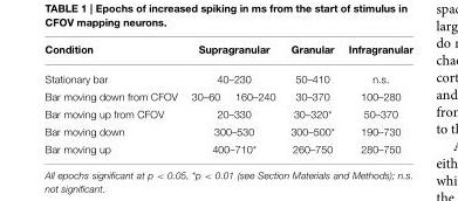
<table><thead><tr><td rowspan="3">Condition Stationary bar Bar moving down from CFOV</td><td rowspan="2" colspan="2">Supragranular 40–230</td><td rowspan="3">Granular 50–410 30–370</td><td rowspan="3">Infragranular n.s. 100–280</td></tr><tr></tr><tr><td>30–60</td><td>160–240</td></tr></thead><tbody><tr><td>Bar moving up from CFOV</td><td colspan="2">20–330</td><td>30–320*</td><td>50–370</td></tr><tr><td>Bar moving down</td><td colspan="2">300–530</td><td>300–500*</td><td>190–730</td></tr><tr><td>Bar moving up</td><td colspan="2">400–710*</td><td>260–750</td><td>280–750</td></tr></tbody></table>